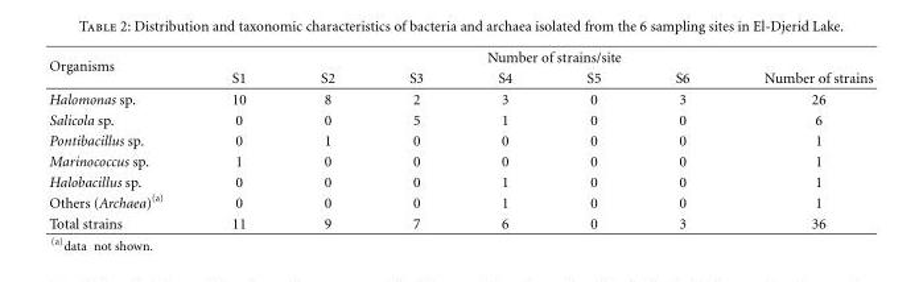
<table><thead><tr><td rowspan="2">Organisms</td><td colspan="7">Number of strains/site</td></tr><tr><td>S1</td><td>S2</td><td>S3</td><td>S4</td><td>S5</td><td>S6</td><td>Number of strains</td></tr></thead><tbody><tr><td>Halomonas sp.</td><td>10</td><td>8</td><td>2</td><td>3</td><td>0</td><td>3</td><td>26</td></tr><tr><td>Salicola sp.</td><td>0</td><td>0</td><td>5</td><td>1</td><td>0</td><td>0</td><td>6</td></tr><tr><td>Pontibacillus sp.</td><td>0</td><td>1</td><td>0</td><td>0</td><td>0</td><td>0</td><td>1</td></tr><tr><td>Marinococcus sp.</td><td>1</td><td>0</td><td>0</td><td>0</td><td>0</td><td>0</td><td>1</td></tr><tr><td>Halobacillus sp.</td><td>0</td><td>0</td><td>0</td><td>1</td><td>0</td><td>0</td><td>1</td></tr><tr><td>Others (Archaea)<sup>(a)</sup></td><td>0</td><td>0</td><td>0</td><td>1</td><td>0</td><td>0</td><td>1</td></tr><tr><td>Total strains</td><td>11</td><td>9</td><td>7</td><td>6</td><td>0</td><td>3</td><td>36</td></tr></tbody></table>